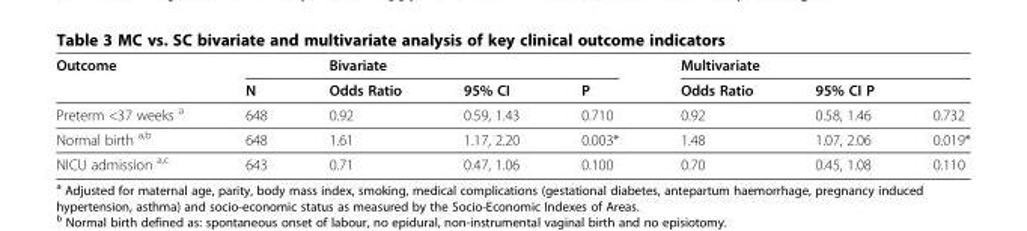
<table><thead><tr><td rowspan="3">Outcome Preterm &lt;37 weeks <sup>a</sup></td><td rowspan="3">N 648</td><td colspan="3">Bivariate</td><td colspan="3">Multivariate</td></tr><tr><td rowspan="2">Odds Ratio 0.92</td><td rowspan="2">95% CI 0.59, 1.43</td><td rowspan="2">P 0.710</td><td rowspan="2">Odds Ratio 0.92</td><td colspan="2">95% CI P</td></tr><tr><td>0.58, 1.46</td><td>0.732</td></tr></thead><tbody><tr><td>Normal birth <sup>a,b</sup></td><td>648</td><td>1.61</td><td>1.17, 2.20</td><td>0.003*</td><td>1.48</td><td>1.07, 2.06</td><td>0.019*</td></tr><tr><td>NICU admission <sup>a,c</sup></td><td>643</td><td>0.71</td><td>0.47, 1.06</td><td>0.100</td><td>0.70</td><td>0.45, 1.08</td><td>0.110</td></tr></tbody></table>